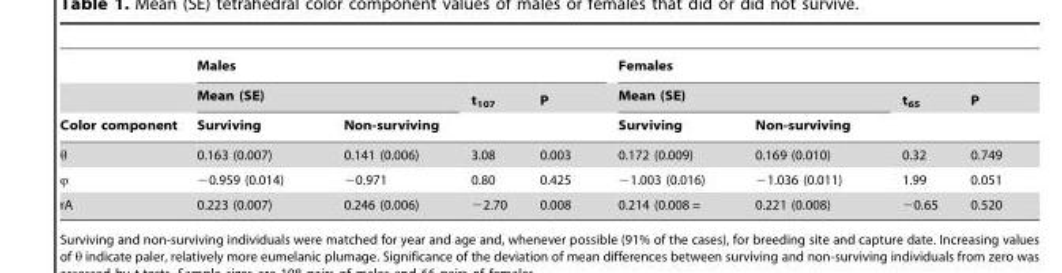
<table><thead><tr><td rowspan="3">Color component</td><td colspan="4">Males</td><td colspan="4">Females</td></tr><tr><td colspan="2">Mean (SE)</td><td rowspan="2">t<sub>107</sub></td><td rowspan="2">P</td><td colspan="2">Mean (SE)</td><td rowspan="2">t<sub>65</sub></td><td rowspan="2">P</td></tr><tr><td>Surviving</td><td>Non-surviving</td><td>Surviving</td><td>Non-surviving</td></tr></thead><tbody><tr><td>θ</td><td>0.163 (0.007)</td><td>0.141 (0.006)</td><td>3.08</td><td>0.003</td><td>0.172 (0.009)</td><td>0.169 (0.010)</td><td>0.32</td><td>0.749</td></tr><tr><td>φ</td><td>−0.959 (0.014)</td><td>−0.971</td><td>0.80</td><td>0.425</td><td>−1.003 (0.016)</td><td>−1.036 (0.011)</td><td>1.99</td><td>0.051</td></tr><tr><td>rA</td><td>0.223 (0.007)</td><td>0.246 (0.006)</td><td>−2.70</td><td>0.008</td><td>0.214 (0.008 =</td><td>0.221 (0.008)</td><td>−0.65</td><td>0.520</td></tr></tbody></table>